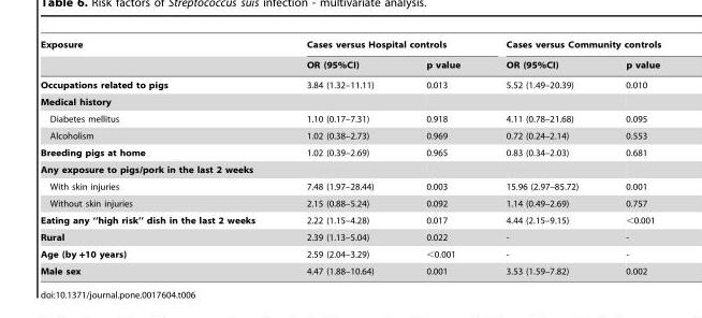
<table><thead><tr><td rowspan="2">Exposure</td><td colspan="2">Cases versus Hospital controls</td><td colspan="2">Cases versus Community controls</td></tr><tr><td>OR (95%CI)</td><td>p value</td><td>OR (95%CI)</td><td>p value</td></tr></thead><tbody><tr><td>Occupations related to pigs</td><td>3.84 (1.32–11.11)</td><td>0.013</td><td>5.52 (1.49–20.39)</td><td>0.010</td></tr><tr><td colspan="5">Medical history</td></tr><tr><td>Diabetes mellitus</td><td>1.10 (0.17–7.31)</td><td>0.918</td><td>4.11 (0.78–21.68)</td><td>0.095</td></tr><tr><td>Alcoholism</td><td>1.02 (0.38–2.73)</td><td>0.969</td><td>0.72 (0.24–2.14)</td><td>0.553</td></tr><tr><td>Breeding pigs at home</td><td>1.02 (0.39–2.69)</td><td>0.965</td><td>0.83 (0.34–2.03)</td><td>0.681</td></tr><tr><td colspan="5">Any exposure to pigs/pork in the last 2 weeks</td></tr><tr><td>With skin injuries</td><td>7.48 (1.97–28.44)</td><td>0.003</td><td>15.96 (2.97–85.72)</td><td>0.001</td></tr><tr><td>Without skin injuries</td><td>2.15 (0.88–5.24)</td><td>0.092</td><td>1.14 (0.49–2.69)</td><td>0.757</td></tr><tr><td>Eating any ‘‘high risk’’ dish in the last 2 weeks</td><td>2.22 (1.15–4.28)</td><td>0.017</td><td>4.44 (2.15–9.15)</td><td>&lt;0.001</td></tr><tr><td>Rural</td><td>2.39 (1.13–5.04)</td><td>0.022</td><td>-</td><td>-</td></tr><tr><td>Age (by +10 years)</td><td>2.59 (2.04–3.29)</td><td>&lt;0.001</td><td>-</td><td>-</td></tr><tr><td>Male sex</td><td>4.47 (1.88–10.64)</td><td>0.001</td><td>3.53 (1.59–7.82)</td><td>0.002</td></tr></tbody></table>